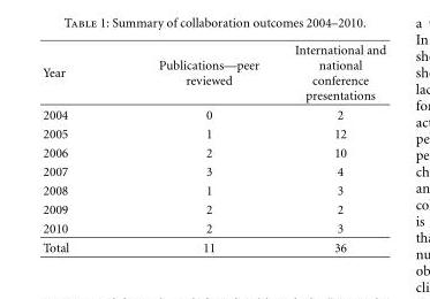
<table><thead><tr><td>Year</td><td>Publications—peer reviewed</td><td>International and national conference presentations</td></tr></thead><tbody><tr><td>2004</td><td>0</td><td>2</td></tr><tr><td>2005</td><td>1</td><td>12</td></tr><tr><td>2006</td><td>2</td><td>10</td></tr><tr><td>2007</td><td>3</td><td>4</td></tr><tr><td>2008</td><td>1</td><td>3</td></tr><tr><td>2009</td><td>2</td><td>2</td></tr><tr><td>2010</td><td>2</td><td>3</td></tr><tr><td>Total</td><td>11</td><td>36</td></tr></tbody></table>